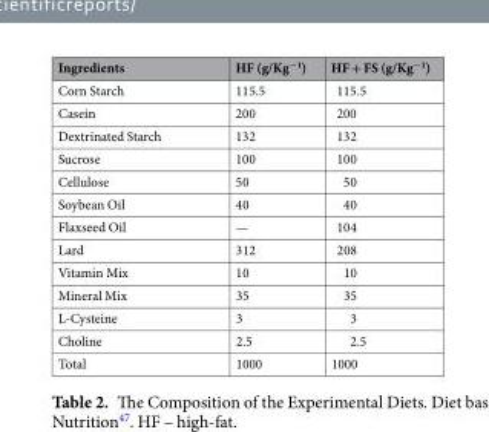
<table><thead><tr><td>Ingredients</td><td>HF (g/Kg<sup>−1</sup>)</td><td>HF + FS (g/Kg<sup>−1</sup>)</td></tr></thead><tbody><tr><td>Corn Starch</td><td>115.5</td><td>115.5</td></tr><tr><td>Casein</td><td>200</td><td>200</td></tr><tr><td>Dextrinated Starch</td><td>132</td><td>132</td></tr><tr><td>Sucrose</td><td>100</td><td>100</td></tr><tr><td>Cellulose</td><td>50</td><td>50</td></tr><tr><td>Soybean Oil</td><td>40</td><td>40</td></tr><tr><td>Flaxseed Oil</td><td>—</td><td>104</td></tr><tr><td>Lard</td><td>312</td><td>208</td></tr><tr><td>Vitamin Mix</td><td>10</td><td>10</td></tr><tr><td>Mineral Mix</td><td>35</td><td>35</td></tr><tr><td>L-Cysteine</td><td>3</td><td>3</td></tr><tr><td>Choline</td><td>2.5</td><td>2.5</td></tr><tr><td>Total</td><td>1000</td><td>1000</td></tr></tbody></table>